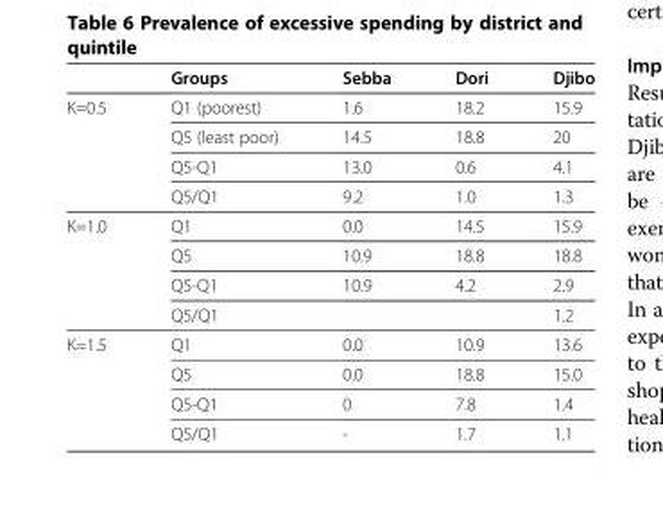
<table><thead><tr><td></td><td>Groups</td><td>Sebba</td><td>Dori</td><td>Djibo</td></tr></thead><tbody><tr><td rowspan="4">K=0.5</td><td>Q1 (poorest)</td><td>1.6</td><td>18.2</td><td>15.9</td></tr><tr><td>Q5 (least poor)</td><td>14.5</td><td>18.8</td><td>20</td></tr><tr><td>Q5-Q1</td><td>13.0</td><td>0.6</td><td>4.1</td></tr><tr><td>Q5/Q1</td><td>9.2</td><td>1.0</td><td>1.3</td></tr><tr><td rowspan="4">K=1.0</td><td>Q1</td><td>0.0</td><td>14.5</td><td>15.9</td></tr><tr><td>Q5</td><td>10.9</td><td>18.8</td><td>18.8</td></tr><tr><td>Q5-Q1</td><td>10.9</td><td>4.2</td><td>2.9</td></tr><tr><td>Q5/Q1</td><td></td><td></td><td>1.2</td></tr><tr><td rowspan="4">K=1.5</td><td>Q1</td><td>0.0</td><td>10.9</td><td>13.6</td></tr><tr><td>Q5</td><td>0.0</td><td>18.8</td><td>15.0</td></tr><tr><td>Q5-Q1</td><td>0</td><td>7.8</td><td>1.4</td></tr><tr><td>Q5/Q1</td><td>-</td><td>1.7</td><td>1.1</td></tr></tbody></table>